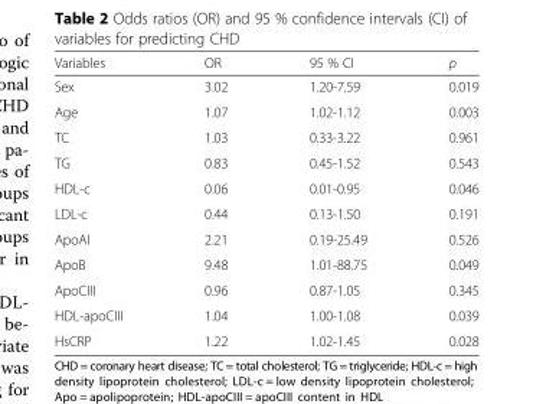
<table><thead><tr><td>Variables</td><td>OR</td><td>95 % CI</td><td>p</td></tr></thead><tbody><tr><td>Sex</td><td>3.02</td><td>1.20-7.59</td><td>0.019</td></tr><tr><td>Age</td><td>1.07</td><td>1.02-1.12</td><td>0.003</td></tr><tr><td>TC</td><td>1.03</td><td>0.33-3.22</td><td>0.961</td></tr><tr><td>TG</td><td>0.83</td><td>0.45-1.52</td><td>0.543</td></tr><tr><td>HDL-c</td><td>0.06</td><td>0.01-0.95</td><td>0.046</td></tr><tr><td>LDL-c</td><td>0.44</td><td>0.13-1.50</td><td>0.191</td></tr><tr><td>ApoAI</td><td>2.21</td><td>0.19-25.49</td><td>0.526</td></tr><tr><td>ApoB</td><td>9.48</td><td>1.01-88.75</td><td>0.049</td></tr><tr><td>ApoCIII</td><td>0.96</td><td>0.87-1.05</td><td>0.345</td></tr><tr><td>HDL-apoCIII</td><td>1.04</td><td>1.00-1.08</td><td>0.039</td></tr><tr><td>HsCRP</td><td>1.22</td><td>1.02-1.45</td><td>0.028</td></tr></tbody></table>